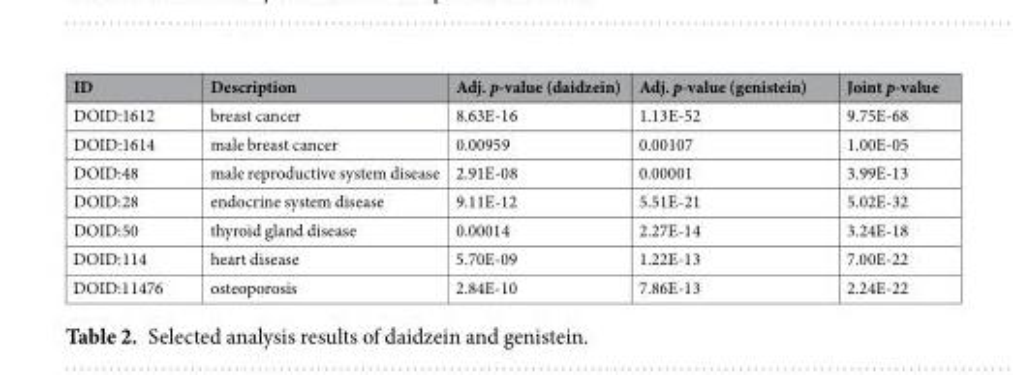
<table><thead><tr><td>ID</td><td>Description</td><td>Adj. p-value (daidzein)</td><td>Adj. p-value (genistein)</td><td>Joint p-value</td></tr></thead><tbody><tr><td>DOID:1612</td><td>breast cancer</td><td>8.63E-16</td><td>1.13E-52</td><td>9.75E-68</td></tr><tr><td>DOID:1614</td><td>male breast cancer</td><td>0.00959</td><td>0.00107</td><td>1.00E-05</td></tr><tr><td>DOID:48</td><td>male reproductive system disease</td><td>2.91E-08</td><td>0.00001</td><td>3.99E-13</td></tr><tr><td>DOID:28</td><td>endocrine system disease</td><td>9.11E-12</td><td>5.51E-21</td><td>5.02E-32</td></tr><tr><td>DOID:50</td><td>thyroid gland disease</td><td>0.00014</td><td>2.27E-14</td><td>3.24E-18</td></tr><tr><td>DOID:114</td><td>heart disease</td><td>5.70E-09</td><td>1.22E-13</td><td>7.00E-22</td></tr><tr><td>DOID:11476</td><td>osteoporosis</td><td>2.84E-10</td><td>7.86E-13</td><td>2.24E-22</td></tr></tbody></table>